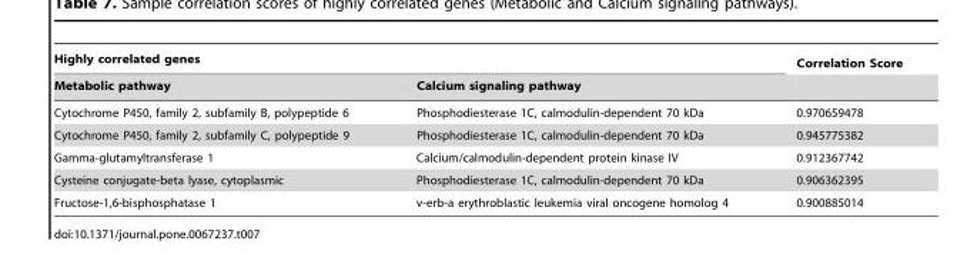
<table><thead><tr><td colspan="2">Highly correlated genes</td><td rowspan="2">Correlation Score</td></tr><tr><td>Metabolic pathway</td><td>Calcium signaling pathway</td></tr></thead><tbody><tr><td>Cytochrome P450, family 2, subfamily B, polypeptide 6</td><td>Phosphodiesterase 1C, calmodulin-dependent 70 kDa</td><td>0.970659478</td></tr><tr><td>Cytochrome P450, family 2, subfamily C, polypeptide 9</td><td>Phosphodiesterase 1C, calmodulin-dependent 70 kDa</td><td>0.945775382</td></tr><tr><td>Gamma-glutamyltransferase 1</td><td>Calcium/calmodulin-dependent protein kinase IV</td><td>0.912367742</td></tr><tr><td>Cysteine conjugate-beta lyase, cytoplasmic</td><td>Phosphodiesterase 1C, calmodulin-dependent 70 kDa</td><td>0.906362395</td></tr><tr><td>Fructose-1,6-bisphosphatase 1</td><td>v-erb-a erythroblastic leukemia viral oncogene homolog 4</td><td>0.900885014</td></tr></tbody></table>